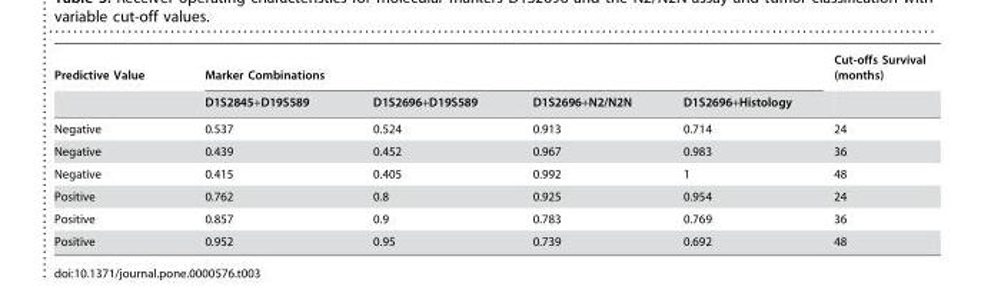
<table><thead><tr><td rowspan="2">Predictive Value</td><td colspan="4">Marker Combinations</td><td rowspan="2">Cut-offs Survival (months)</td></tr><tr><td>D1S2845+D19S589</td><td>D1S2696+D19S589</td><td>D1S2696+N2/N2N</td><td>D1S2696+Histology</td></tr></thead><tbody><tr><td>Negative</td><td>0.537</td><td>0.524</td><td>0.913</td><td>0.714</td><td>24</td></tr><tr><td>Negative</td><td>0.439</td><td>0.452</td><td>0.967</td><td>0.983</td><td>36</td></tr><tr><td>Negative</td><td>0.415</td><td>0.405</td><td>0.992</td><td>1</td><td>48</td></tr><tr><td>Positive</td><td>0.762</td><td>0.8</td><td>0.925</td><td>0.954</td><td>24</td></tr><tr><td>Positive</td><td>0.857</td><td>0.9</td><td>0.783</td><td>0.769</td><td>36</td></tr><tr><td>Positive</td><td>0.952</td><td>0.95</td><td>0.739</td><td>0.692</td><td>48</td></tr></tbody></table>